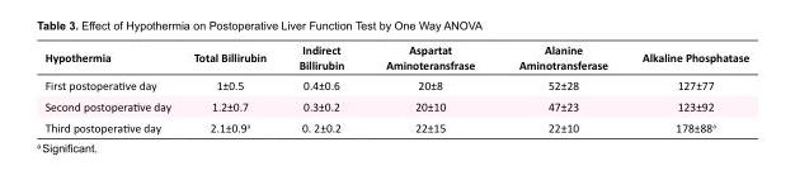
<table><tbody><tr><td>Hypothermia</td><td>Total Billirubin</td><td>Indirect Billirubin</td><td>Aspartat Aminoteransfrase</td><td>Alanine Aminotransferase</td><td>Alkaline Phosphatase</td></tr><tr><td>First postoperative day</td><td>1±0.5</td><td>0.4±0.6</td><td>20±8</td><td>52±28</td><td>127±77</td></tr><tr><td>Second postoperative day</td><td>1.2±0.7</td><td>0.3±0.2</td><td>20±10</td><td>47±23</td><td>123±92</td></tr><tr><td>Third postoperative day</td><td>2.1±0.9<sup>a</sup></td><td>0. 2±0.2</td><td>22±15</td><td>22±10</td><td>178±88<sup>a</sup></td></tr></tbody></table>